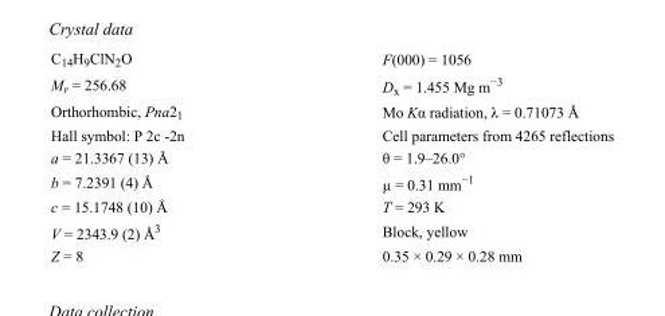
<table><tbody><tr><td>C<sub>14</sub>H<sub>9</sub>ClN<sub>2</sub>O</td><td>F(000) = 1056</td></tr><tr><td>M<sub>r</sub> = 256.68</td><td>D<sub>x</sub> = 1.455 Mg m<sup>−3</sup></td></tr><tr><td>Orthorhombic, Pna2<sub>1</sub></td><td>Mo Kα radiation, λ = 0.71073 Å</td></tr><tr><td>Hall symbol: P 2c -2n</td><td>Cell parameters from 4265 reflections</td></tr><tr><td>a = 21.3367 (13) Å</td><td>θ = 1.9–26.0°</td></tr><tr><td>b = 7.2391 (4) Å</td><td>µ = 0.31 mm<sup>−1</sup></td></tr><tr><td>c = 15.1748 (10) Å</td><td>T = 293 K</td></tr><tr><td>V = 2343.9 (2) Å<sup>3</sup></td><td>Block, yellow</td></tr><tr><td>Z = 8</td><td>0.35 × 0.29 × 0.28 mm</td></tr></tbody></table>